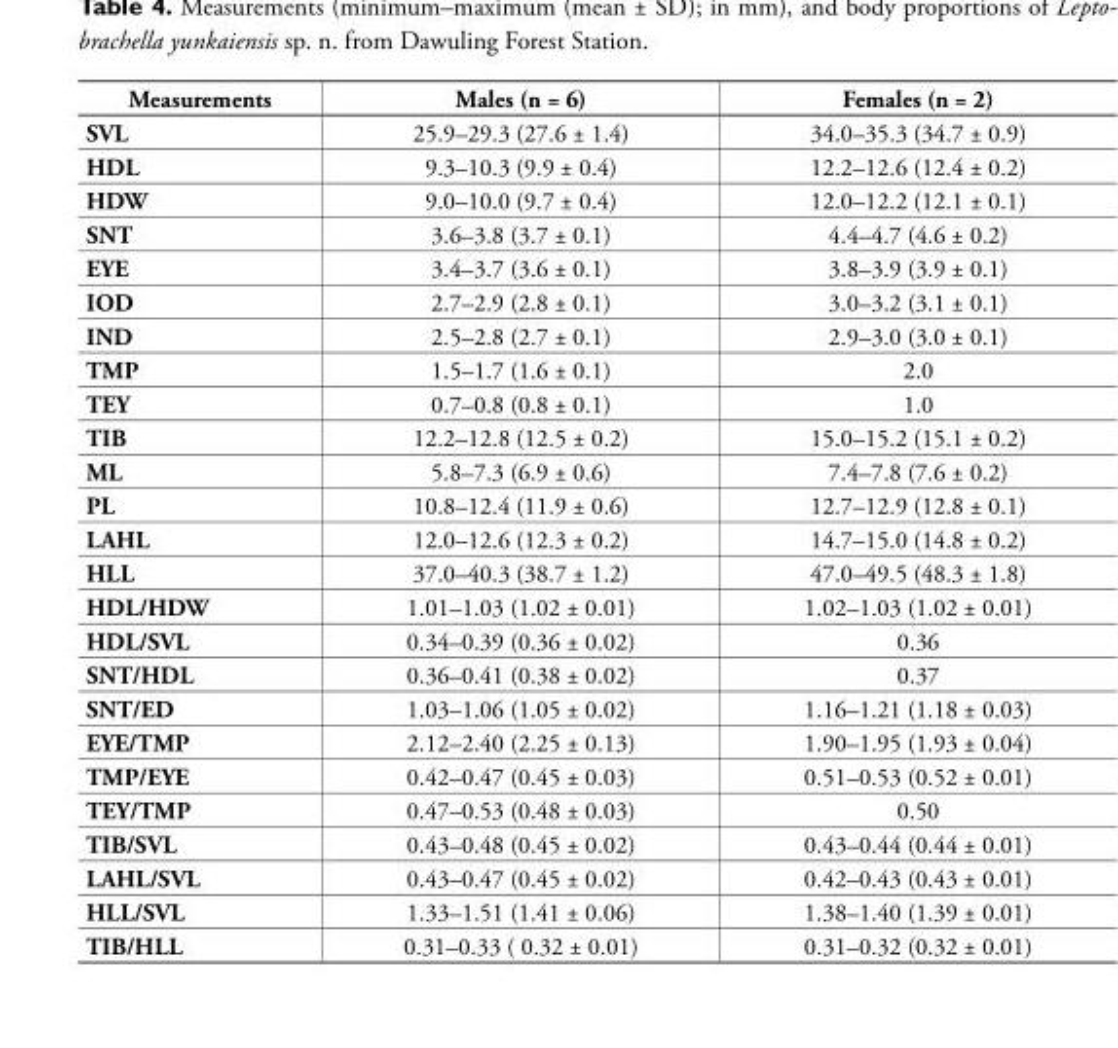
<table><thead><tr><td>Measurements</td><td>Males (n = 6)</td><td>Females (n = 2)</td></tr></thead><tbody><tr><td>SVL</td><td>25.9–29.3 (27.6 ± 1.4)</td><td>34.0–35.3 (34.7 ± 0.9)</td></tr><tr><td>HDL</td><td>9.3–10.3 (9.9 ± 0.4)</td><td>12.2–12.6 (12.4 ± 0.2)</td></tr><tr><td>HDW</td><td>9.0–10.0 (9.7 ± 0.4)</td><td>12.0–12.2 (12.1 ± 0.1)</td></tr><tr><td>SNT</td><td>3.6–3.8 (3.7 ± 0.1)</td><td>4.4–4.7 (4.6 ± 0.2)</td></tr><tr><td>EYE</td><td>3.4–3.7 (3.6 ± 0.1)</td><td>3.8–3.9 (3.9 ± 0.1)</td></tr><tr><td>IOD</td><td>2.7–2.9 (2.8 ± 0.1)</td><td>3.0–3.2 (3.1 ± 0.1)</td></tr><tr><td>IND</td><td>2.5–2.8 (2.7 ± 0.1)</td><td>2.9–3.0 (3.0 ± 0.1)</td></tr><tr><td>TMP</td><td>1.5–1.7 (1.6 ± 0.1)</td><td>2.0</td></tr><tr><td>TEY</td><td>0.7–0.8 (0.8 ± 0.1)</td><td>1.0</td></tr><tr><td>TIB</td><td>12.2–12.8 (12.5 ± 0.2)</td><td>15.0–15.2 (15.1 ± 0.2)</td></tr><tr><td>ML</td><td>5.8–7.3 (6.9 ± 0.6)</td><td>7.4–7.8 (7.6 ± 0.2)</td></tr><tr><td>PL</td><td>10.8–12.4 (11.9 ± 0.6)</td><td>12.7–12.9 (12.8 ± 0.1)</td></tr><tr><td>LAHL</td><td>12.0–12.6 (12.3 ± 0.2)</td><td>14.7–15.0 (14.8 ± 0.2)</td></tr><tr><td>HLL</td><td>37.0–40.3 (38.7 ± 1.2)</td><td>47.0–49.5 (48.3 ± 1.8)</td></tr><tr><td>HDL/HDW</td><td>1.01–1.03 (1.02 ± 0.01)</td><td>1.02–1.03 (1.02 ± 0.01)</td></tr><tr><td>HDL/SVL</td><td>0.34–0.39 (0.36 ± 0.02)</td><td>0.36</td></tr><tr><td>SNT/HDL</td><td>0.36–0.41 (0.38 ± 0.02)</td><td>0.37</td></tr><tr><td>SNT/ED</td><td>1.03–1.06 (1.05 ± 0.02)</td><td>1.16–1.21 (1.18 ± 0.03)</td></tr><tr><td>EYE/TMP</td><td>2.12–2.40 (2.25 ± 0.13)</td><td>1.90–1.95 (1.93 ± 0.04)</td></tr><tr><td>TMP/EYE</td><td>0.42–0.47 (0.45 ± 0.03)</td><td>0.51–0.53 (0.52 ± 0.01)</td></tr><tr><td>TEY/TMP</td><td>0.47–0.53 (0.48 ± 0.03)</td><td>0.50</td></tr><tr><td>TIB/SVL</td><td>0.43–0.48 (0.45 ± 0.02)</td><td>0.43–0.44 (0.44 ± 0.01)</td></tr><tr><td>LAHL/SVL</td><td>0.43–0.47 (0.45 ± 0.02)</td><td>0.42–0.43 (0.43 ± 0.01)</td></tr><tr><td>HLL/SVL</td><td>1.33–1.51 (1.41 ± 0.06)</td><td>1.38–1.40 (1.39 ± 0.01)</td></tr><tr><td>TIB/HLL</td><td>0.31–0.33 ( 0.32 ± 0.01)</td><td>0.31–0.32 (0.32 ± 0.01)</td></tr></tbody></table>